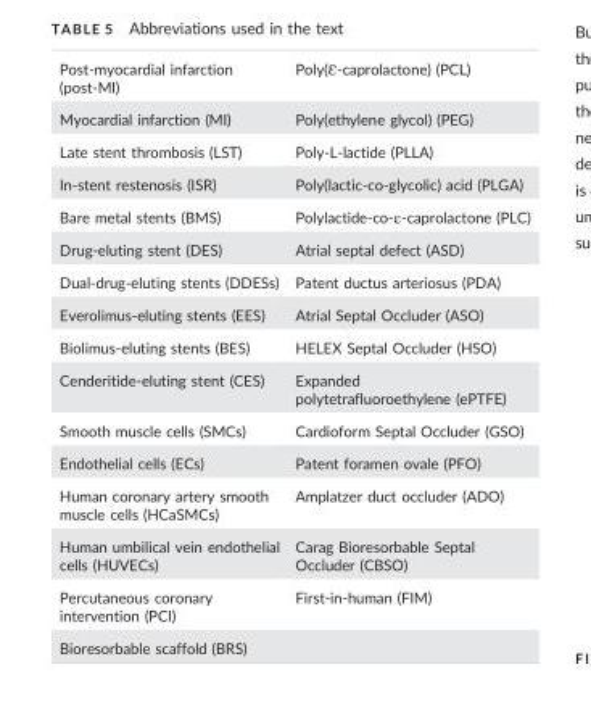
<table><tbody><tr><td>Post-myocardial infarction (post-MI)</td><td>Poly(Ɛ-caprolactone) (PCL)</td></tr><tr><td>Myocardial infarction (MI)</td><td>Poly(ethylene glycol) (PEG)</td></tr><tr><td>Late stent thrombosis (LST)</td><td>Poly-L-lactide (PLLA)</td></tr><tr><td>In-stent restenosis (ISR)</td><td>Poly(lactic-co-glycolic) acid (PLGA)</td></tr><tr><td>Bare metal stents (BMS)</td><td>Polylactide-co-E-caprolactone (PLC)</td></tr><tr><td>Drug-eluting stent (DES)</td><td>Atrial septal defect (ASD)</td></tr><tr><td>Dual-drug-eluting stents (DDESs)</td><td>Patent ductus arteriosus (PDA)</td></tr><tr><td>Everolimus-eluting stents (EES)</td><td>Atrial Septal Occluder (ASO)</td></tr><tr><td>Biolimus-eluting stents (BES)</td><td>HELEX Septal Occluder (HSO)</td></tr><tr><td>Cenderitide-eluting stent (CES)</td><td>Expanded polytetrafluoroethylene (ePTFE)</td></tr><tr><td>Smooth muscle cells (SMCs)</td><td>Cardioform Septal Occluder (GSO)</td></tr><tr><td>Endothelial cells (ECs)</td><td>Patent foramen ovale (PFO)</td></tr><tr><td>Human coronary artery smooth muscle cells (HCaSMCs)</td><td>Amplatzer duct occluder (ADO)</td></tr><tr><td>Human umbilical vein endothelial cells (HUVECs)</td><td>Carag Bioresorbable Septal Occluder (CBSO)</td></tr><tr><td>Percutaneous coronary intervention (PCI)</td><td>First-in-human (FIM)</td></tr><tr><td>Bioresorbable scaffold (BRS)</td><td></td></tr></tbody></table>